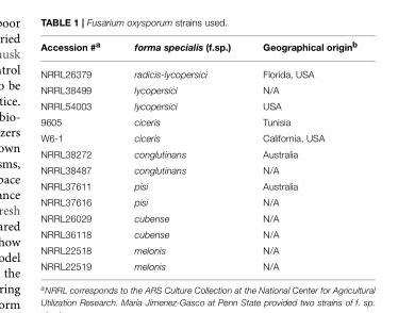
<table><thead><tr><td>Accession #<sup>a</sup></td><td>forma specialis (f.sp.)</td><td>Geographical origin<sup>b</sup></td></tr></thead><tbody><tr><td>NRRL26379</td><td>radicis-lycopersici</td><td>Florida, USA</td></tr><tr><td>NRRL38499</td><td>lycopersici</td><td>N/A</td></tr><tr><td>NRRL54003</td><td>lycopersici</td><td>USA</td></tr><tr><td>9605</td><td>ciceris</td><td>Tunisia</td></tr><tr><td>W6-1</td><td>ciceris</td><td>California, USA</td></tr><tr><td>NRRL38272</td><td>conglutinans</td><td>Australia</td></tr><tr><td>NRRL38487</td><td>conglutinans</td><td>N/A</td></tr><tr><td>NRRL37611</td><td>pisi</td><td>Australia</td></tr><tr><td>NRRL37616</td><td>pisi</td><td>N/A</td></tr><tr><td>NRRL26029</td><td>cubense</td><td>N/A</td></tr><tr><td>NRRL36118</td><td>cubense</td><td>N/A</td></tr><tr><td>NRRL22518</td><td>melonis</td><td>N/A</td></tr><tr><td>NRRL22519</td><td>melonis</td><td>N/A</td></tr></tbody></table>